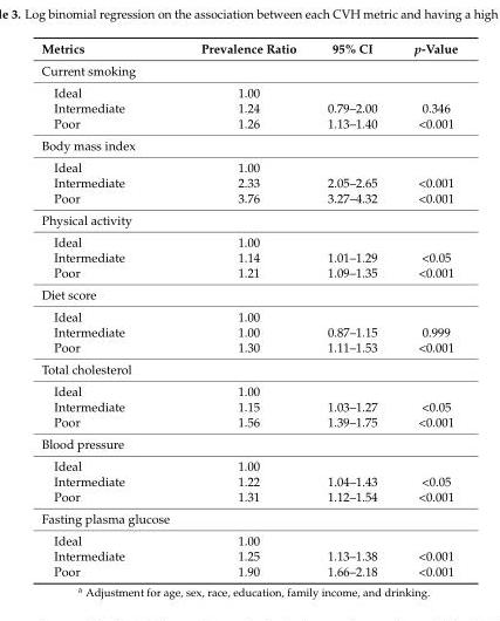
<table><thead><tr><td>Metrics</td><td>Prevalence Ratio</td><td>95% CI</td><td>p-Value</td></tr></thead><tbody><tr><td colspan="4">Current smoking</td></tr><tr><td>Ideal</td><td>1.00</td><td></td><td></td></tr><tr><td>Intermediate</td><td>1.24</td><td>0.79–2.00</td><td>0.346</td></tr><tr><td>Poor</td><td>1.26</td><td>1.13–1.40</td><td>&lt;0.001</td></tr><tr><td colspan="4">Body mass index</td></tr><tr><td>Ideal</td><td>1.00</td><td></td><td></td></tr><tr><td>Intermediate</td><td>2.33</td><td>2.05–2.65</td><td>&lt;0.001</td></tr><tr><td>Poor</td><td>3.76</td><td>3.27–4.32</td><td>&lt;0.001</td></tr><tr><td colspan="4">Physical activity</td></tr><tr><td>Ideal</td><td>1.00</td><td></td><td></td></tr><tr><td>Intermediate</td><td>1.14</td><td>1.01–1.29</td><td>&lt;0.05</td></tr><tr><td>Poor</td><td>1.21</td><td>1.09–1.35</td><td>&lt;0.001</td></tr><tr><td colspan="4">Diet score</td></tr><tr><td>Ideal</td><td>1.00</td><td></td><td></td></tr><tr><td>Intermediate</td><td>1.00</td><td>0.87–1.15</td><td>0.999</td></tr><tr><td>Poor</td><td>1.30</td><td>1.11–1.53</td><td>&lt;0.001</td></tr><tr><td colspan="4">Total cholesterol</td></tr><tr><td>Ideal</td><td>1.00</td><td></td><td></td></tr><tr><td>Intermediate</td><td>1.15</td><td>1.03–1.27</td><td>&lt;0.05</td></tr><tr><td>Poor</td><td>1.56</td><td>1.39–1.75</td><td>&lt;0.001</td></tr><tr><td colspan="4">Blood pressure</td></tr><tr><td>Ideal</td><td>1.00</td><td></td><td></td></tr><tr><td>Intermediate</td><td>1.22</td><td>1.04–1.43</td><td>&lt;0.05</td></tr><tr><td>Poor</td><td>1.31</td><td>1.12–1.54</td><td>&lt;0.001</td></tr><tr><td colspan="4">Fasting plasma glucose</td></tr><tr><td>Ideal</td><td>1.00</td><td></td><td></td></tr><tr><td>Intermediate</td><td>1.25</td><td>1.13–1.38</td><td>&lt;0.001</td></tr><tr><td>Poor</td><td>1.90</td><td>1.66–2.18</td><td>&lt;0.001</td></tr></tbody></table>